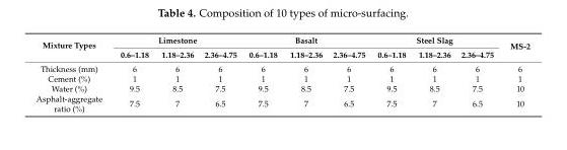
<table><thead><tr><td rowspan="2">Mixture Types</td><td colspan="3">Limestone</td><td colspan="3">Basalt</td><td colspan="3">Steel Slag</td><td rowspan="2">MS-2</td></tr><tr><td>0.6–1.18</td><td>1.18–2.36</td><td>2.36–4.75</td><td>0.6–1.18</td><td>1.18–2.36</td><td>2.36–4.75</td><td>0.6–1.18</td><td>1.18–2.36</td><td>2.36–4.75</td></tr></thead><tbody><tr><td>Thickness (mm)</td><td>6</td><td>6</td><td>6</td><td>6</td><td>6</td><td>6</td><td>6</td><td>6</td><td>6</td><td>6</td></tr><tr><td>Cement (%)</td><td>1</td><td>1</td><td>1</td><td>1</td><td>1</td><td>1</td><td>1</td><td>1</td><td>1</td><td>1</td></tr><tr><td>Water (%)</td><td>9.5</td><td>8.5</td><td>7.5</td><td>9.5</td><td>8.5</td><td>7.5</td><td>9.5</td><td>8.5</td><td>7.5</td><td>10</td></tr><tr><td>Asphalt-aggregate ratio (%)</td><td>7.5</td><td>7</td><td>6.5</td><td>7.5</td><td>7</td><td>6.5</td><td>7.5</td><td>7</td><td>6.5</td><td>10</td></tr></tbody></table>